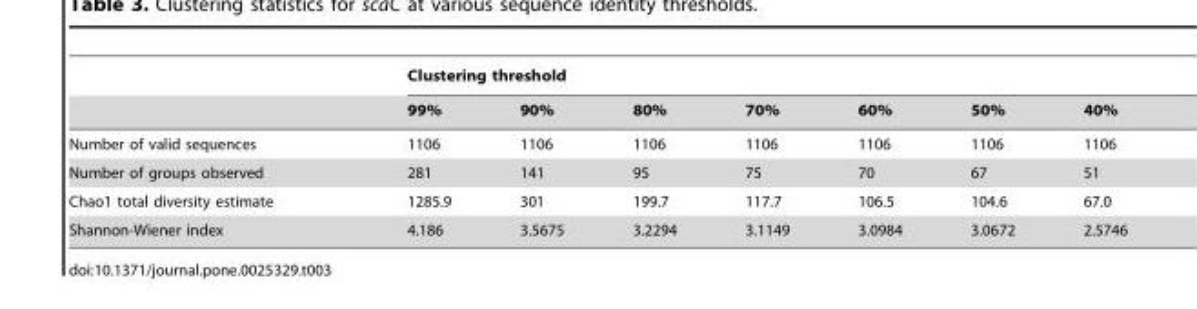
<table><thead><tr><td rowspan="2"></td><td colspan="7">Clustering threshold</td></tr><tr><td>99%</td><td>90%</td><td>80%</td><td>70%</td><td>60%</td><td>50%</td><td>40%</td></tr></thead><tbody><tr><td>Number of valid sequences</td><td>1106</td><td>1106</td><td>1106</td><td>1106</td><td>1106</td><td>1106</td><td>1106</td></tr><tr><td>Number of groups observed</td><td>281</td><td>141</td><td>95</td><td>75</td><td>70</td><td>67</td><td>51</td></tr><tr><td>Chao1 total diversity estimate</td><td>1285.9</td><td>301</td><td>199.7</td><td>117.7</td><td>106.5</td><td>104.6</td><td>67.0</td></tr><tr><td>Shannon-Wiener index</td><td>4.186</td><td>3.5675</td><td>3.2294</td><td>3.1149</td><td>3.0984</td><td>3.0672</td><td>2.5746</td></tr></tbody></table>